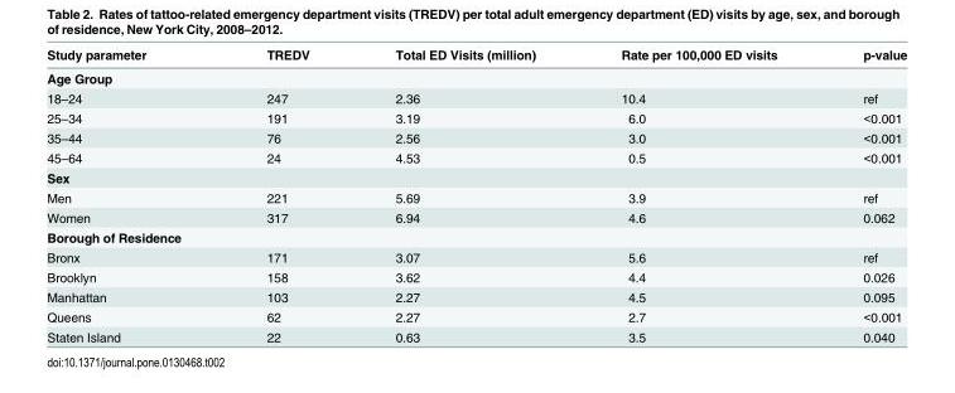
<table><thead><tr><td>Study parameter</td><td>TREDV</td><td>Total ED Visits (million)</td><td>Rate per 100,000 ED visits</td><td>p-value</td></tr></thead><tbody><tr><td colspan="5">Age Group</td></tr><tr><td>18–24</td><td>247</td><td>2.36</td><td>10.4</td><td>ref</td></tr><tr><td>25–34</td><td>191</td><td>3.19</td><td>6.0</td><td>&lt;0.001</td></tr><tr><td>35–44</td><td>76</td><td>2.56</td><td>3.0</td><td>&lt;0.001</td></tr><tr><td>45–64</td><td>24</td><td>4.53</td><td>0.5</td><td>&lt;0.001</td></tr><tr><td colspan="5">Sex</td></tr><tr><td>Men</td><td>221</td><td>5.69</td><td>3.9</td><td>ref</td></tr><tr><td>Women</td><td>317</td><td>6.94</td><td>4.6</td><td>0.062</td></tr><tr><td colspan="5">Borough of Residence</td></tr><tr><td>Bronx</td><td>171</td><td>3.07</td><td>5.6</td><td>ref</td></tr><tr><td>Brooklyn</td><td>158</td><td>3.62</td><td>4.4</td><td>0.026</td></tr><tr><td>Manhattan</td><td>103</td><td>2.27</td><td>4.5</td><td>0.095</td></tr><tr><td>Queens</td><td>62</td><td>2.27</td><td>2.7</td><td>&lt;0.001</td></tr><tr><td>Staten Island</td><td>22</td><td>0.63</td><td>3.5</td><td>0.040</td></tr></tbody></table>